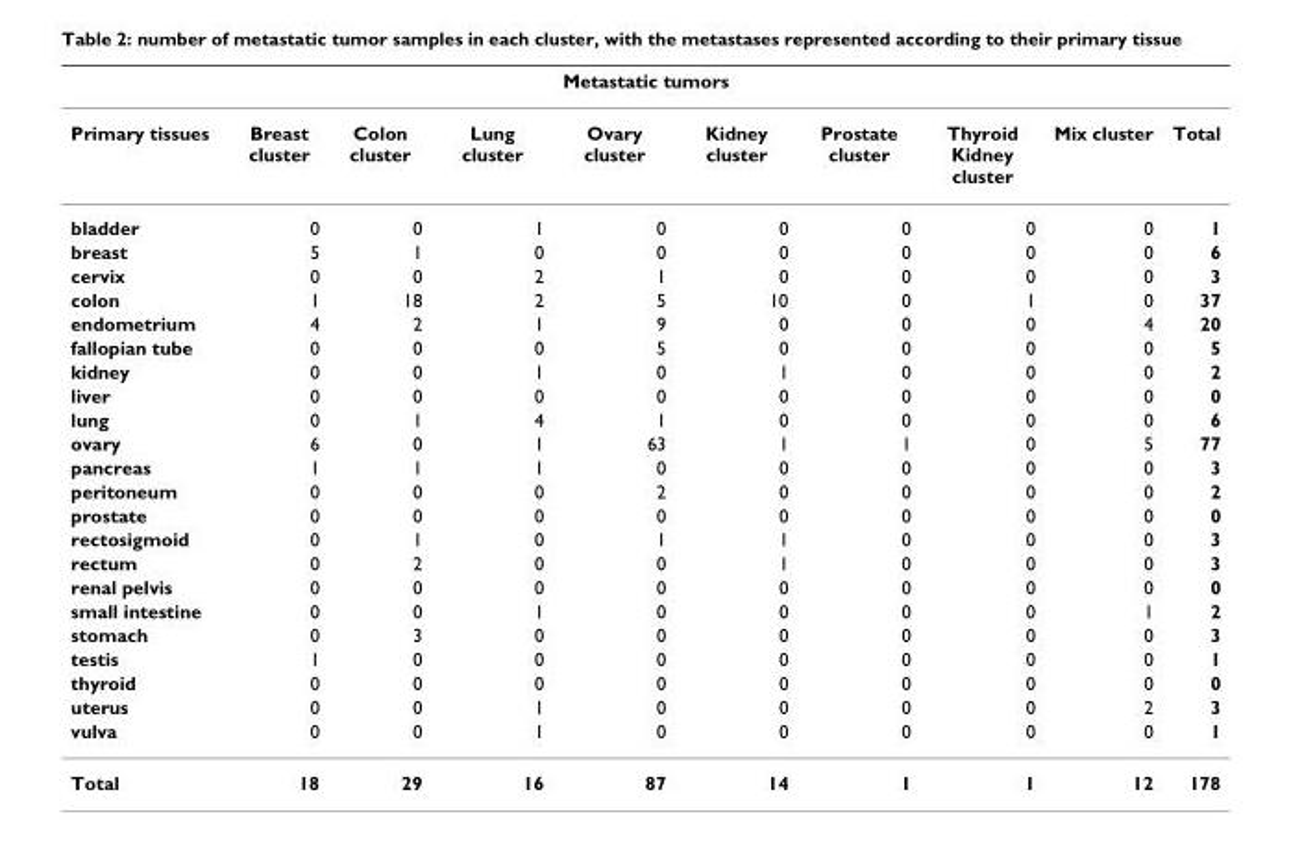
<table><thead><tr><td colspan="10">Metastatic tumors</td></tr><tr><td>Primary tissues</td><td>Breast cluster</td><td>Colon cluster</td><td>Lung cluster</td><td>Ovary cluster</td><td>Kidney cluster</td><td>Prostate cluster</td><td>Thyroid Kidney cluster</td><td>Mix cluster</td><td>Total</td></tr></thead><tbody><tr><td>bladder</td><td>0</td><td>0</td><td>1</td><td>0</td><td>0</td><td>0</td><td>0</td><td>0</td><td>1</td></tr><tr><td>breast</td><td>5</td><td>1</td><td>0</td><td>0</td><td>0</td><td>0</td><td>0</td><td>0</td><td>6</td></tr><tr><td>cervix</td><td>0</td><td>0</td><td>2</td><td>1</td><td>0</td><td>0</td><td>0</td><td>0</td><td>3</td></tr><tr><td>colon</td><td>1</td><td>18</td><td>2</td><td>5</td><td>10</td><td>0</td><td>1</td><td>0</td><td>37</td></tr><tr><td>endometrium</td><td>4</td><td>2</td><td>1</td><td>9</td><td>0</td><td>0</td><td>0</td><td>4</td><td>20</td></tr><tr><td>fallopian tube</td><td>0</td><td>0</td><td>0</td><td>5</td><td>0</td><td>0</td><td>0</td><td>0</td><td>5</td></tr><tr><td>kidney</td><td>0</td><td>0</td><td>1</td><td>0</td><td>1</td><td>0</td><td>0</td><td>0</td><td>2</td></tr><tr><td>liver</td><td>0</td><td>0</td><td>0</td><td>0</td><td>0</td><td>0</td><td>0</td><td>0</td><td>0</td></tr><tr><td>lung</td><td>0</td><td>1</td><td>4</td><td>1</td><td>0</td><td>0</td><td>0</td><td>0</td><td>6</td></tr><tr><td>ovary</td><td>6</td><td>0</td><td>1</td><td>63</td><td>1</td><td>1</td><td>0</td><td>5</td><td>77</td></tr><tr><td>pancreas</td><td>1</td><td>1</td><td>1</td><td>0</td><td>0</td><td>0</td><td>0</td><td>0</td><td>3</td></tr><tr><td>peritoneum</td><td>0</td><td>0</td><td>0</td><td>2</td><td>0</td><td>0</td><td>0</td><td>0</td><td>2</td></tr><tr><td>prostate</td><td>0</td><td>0</td><td>0</td><td>0</td><td>0</td><td>0</td><td>0</td><td>0</td><td>0</td></tr><tr><td>rectosigmoid</td><td>0</td><td>1</td><td>0</td><td>1</td><td>1</td><td>0</td><td>0</td><td>0</td><td>3</td></tr><tr><td>rectum</td><td>0</td><td>2</td><td>0</td><td>0</td><td>1</td><td>0</td><td>0</td><td>0</td><td>3</td></tr><tr><td>renal pelvis</td><td>0</td><td>0</td><td>0</td><td>0</td><td>0</td><td>0</td><td>0</td><td>0</td><td>0</td></tr><tr><td>small intestine</td><td>0</td><td>0</td><td>1</td><td>0</td><td>0</td><td>0</td><td>0</td><td>1</td><td>2</td></tr><tr><td>stomach</td><td>0</td><td>3</td><td>0</td><td>0</td><td>0</td><td>0</td><td>0</td><td>0</td><td>3</td></tr><tr><td>testis</td><td>1</td><td>0</td><td>0</td><td>0</td><td>0</td><td>0</td><td>0</td><td>0</td><td>1</td></tr><tr><td>thyroid</td><td>0</td><td>0</td><td>0</td><td>0</td><td>0</td><td>0</td><td>0</td><td>0</td><td>0</td></tr><tr><td>uterus</td><td>0</td><td>0</td><td>1</td><td>0</td><td>0</td><td>0</td><td>0</td><td>2</td><td>3</td></tr><tr><td>vulva</td><td>0</td><td>0</td><td>1</td><td>0</td><td>0</td><td>0</td><td>0</td><td>0</td><td>1</td></tr><tr><td>Total</td><td>18</td><td>29</td><td>16</td><td>87</td><td>14</td><td>1</td><td>1</td><td>12</td><td>178</td></tr></tbody></table>